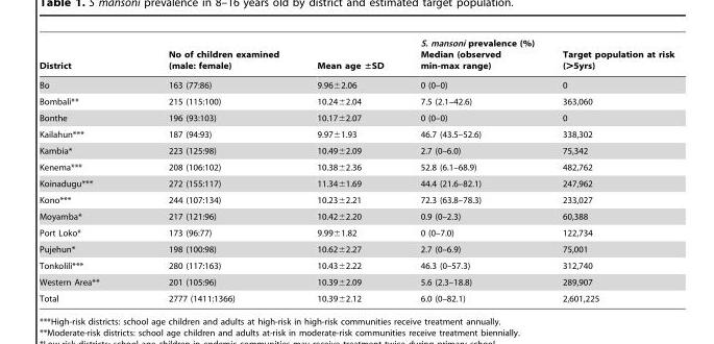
<table><thead><tr><td>District</td><td>No of children examined (male: female)</td><td>Mean age ±SD</td><td>S. mansoni prevalence (%) Median (observed min-max range)</td><td>Target population at risk (&gt;5yrs)</td></tr></thead><tbody><tr><td>Bo</td><td>163 (77:86)</td><td>9.96±2.06</td><td>0 (0–0)</td><td>0</td></tr><tr><td>Bombali**</td><td>215 (115:100)</td><td>10.24±2.04</td><td>7.5 (2.1–42.6)</td><td>363,060</td></tr><tr><td>Bonthe</td><td>196 (93:103)</td><td>10.17±2.07</td><td>0 (0–0)</td><td>0</td></tr><tr><td>Kailahun***</td><td>187 (94:93)</td><td>9.97±1.93</td><td>46.7 (43.5–52.6)</td><td>338,302</td></tr><tr><td>Kambia*</td><td>223 (125:98)</td><td>10.49±2.09</td><td>2.7 (0–6.0)</td><td>75,342</td></tr><tr><td>Kenema***</td><td>208 (106:102)</td><td>10.38±2.36</td><td>52.8 (6.1–68.9)</td><td>482,762</td></tr><tr><td>Koinadugu***</td><td>272 (155:117)</td><td>11.34±1.69</td><td>44.4 (21.6–82.1)</td><td>247,962</td></tr><tr><td>Kono***</td><td>244 (107:134)</td><td>10.23±2.21</td><td>72.3 (63.8–78.3)</td><td>233,027</td></tr><tr><td>Moyamba*</td><td>217 (121:96)</td><td>10.42±2.20</td><td>0.9 (0–2.3)</td><td>60,388</td></tr><tr><td>Port Loko*</td><td>173 (96:77)</td><td>9.99±1.82</td><td>0 (0–7.0)</td><td>122,734</td></tr><tr><td>Pujehun*</td><td>198 (100:98)</td><td>10.62±2.27</td><td>2.7 (0–6.9)</td><td>75,001</td></tr><tr><td>Tonkolili***</td><td>280 (117:163)</td><td>10.43±2.22</td><td>46.3 (0–57.3)</td><td>312,740</td></tr><tr><td>Western Area**</td><td>201 (105:96)</td><td>10.39±2.09</td><td>5.6 (2.3–18.8)</td><td>289,907</td></tr><tr><td>Total</td><td>2777 (1411:1366)</td><td>10.39±2.12</td><td>6.0 (0–82.1)</td><td>2,601,225</td></tr></tbody></table>